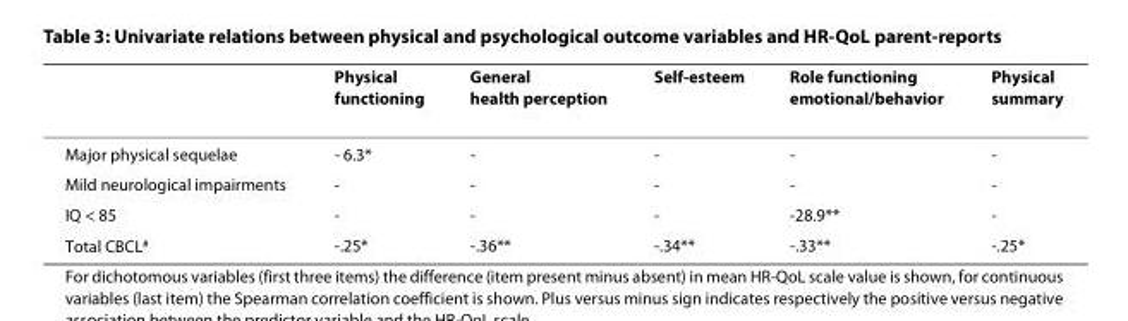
<table><thead><tr><td></td><td>Physical functioning</td><td>General health perception</td><td>Self-esteem</td><td>Role functioning emotional/behavior</td><td>Physical summary</td></tr></thead><tbody><tr><td>Major physical sequelae</td><td>- 6.3*</td><td>-</td><td>-</td><td>-</td><td>-</td></tr><tr><td>Mild neurological impairments</td><td>-</td><td>-</td><td>-</td><td>-</td><td>-</td></tr><tr><td>IQ &lt; 85</td><td>-</td><td>-</td><td>-</td><td>-28.9**</td><td>-</td></tr><tr><td>Total CBCL<sup>#</sup></td><td>-.25*</td><td>-.36**</td><td>-.34**</td><td>-.33**</td><td>-.25*</td></tr></tbody></table>